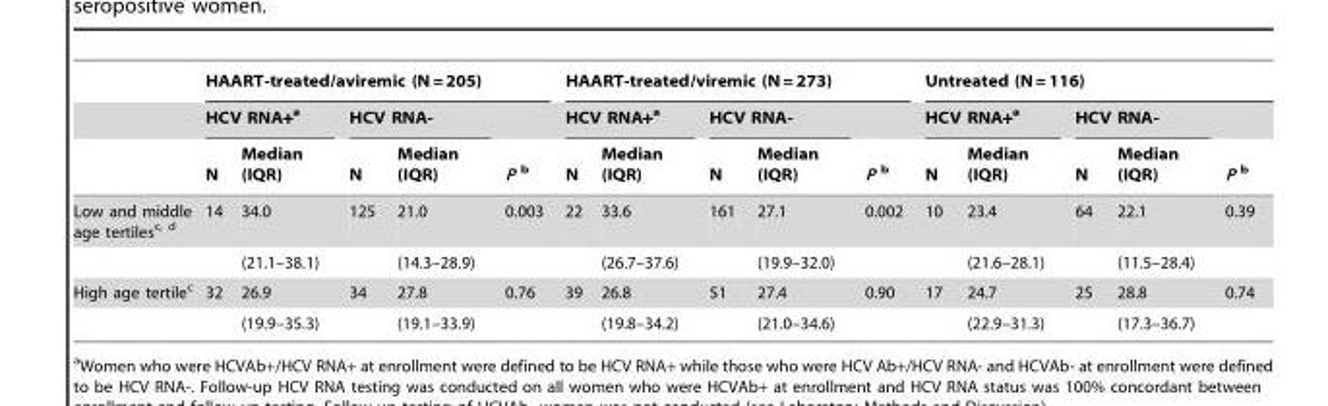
<table><thead><tr><td rowspan="3"></td><td colspan="5">HAART-treated/aviremic (N = 205)</td><td colspan="5">HAART-treated/viremic (N = 273)</td><td colspan="5">Untreated (N = 116)</td></tr><tr><td colspan="2">HCV RNA+<sup>a</sup></td><td colspan="2">HCV RNA-</td><td rowspan="2">P b</td><td colspan="2">HCV RNA+<sup>a</sup></td><td colspan="2">HCV RNA-</td><td rowspan="2">P b</td><td colspan="2">HCV RNA+<sup>a</sup></td><td colspan="2">HCV RNA-</td><td rowspan="2">P b</td></tr><tr><td>N</td><td>Median (IQR)</td><td>N</td><td>Median (IQR)</td><td>N</td><td>Median (IQR)</td><td>N</td><td>Median (IQR)</td><td>N</td><td>Median (IQR)</td><td>N</td><td>Median (IQR)</td></tr></thead><tbody><tr><td rowspan="2">Low and middle age tertilesc, d</td><td>14</td><td>34.0</td><td>125</td><td>21.0</td><td>0.003</td><td>22</td><td>33.6</td><td>161</td><td>27.1</td><td>0.002</td><td>10</td><td>23.4</td><td>64</td><td>22.1</td><td>0.39</td></tr><tr><td></td><td>(21.1–38.1)</td><td></td><td>(14.3–28.9)</td><td></td><td></td><td>(26.7–37.6)</td><td></td><td>(19.9–32.0)</td><td></td><td></td><td>(21.6–28.1)</td><td></td><td>(11.5–28.4)</td><td></td></tr><tr><td rowspan="2">High age tertile<sup>c</sup></td><td>32</td><td>26.9</td><td>34</td><td>27.8</td><td>0.76</td><td>39</td><td>26.8</td><td>51</td><td>27.4</td><td>0.90</td><td>17</td><td>24.7</td><td>25</td><td>28.8</td><td>0.74</td></tr><tr><td></td><td>(19.9–35.3)</td><td></td><td>(19.1–33.9)</td><td></td><td></td><td>(19.8–34.2)</td><td></td><td>(21.0–34.6)</td><td></td><td></td><td>(22.9–31.3)</td><td></td><td>(17.3–36.7)</td><td></td></tr></tbody></table>